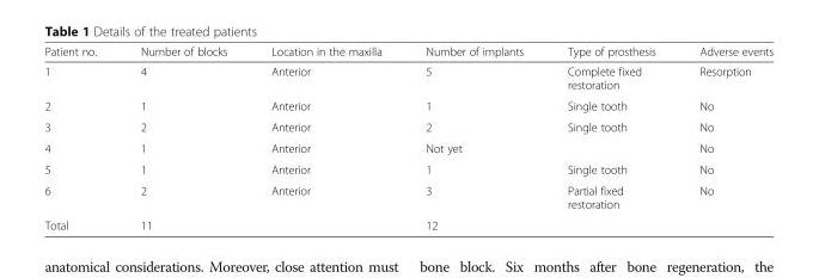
<table><thead><tr><td>Patient no.</td><td>Number of blocks</td><td>Location in the maxilla</td><td>Number of implants</td><td>Type of prosthesis</td><td>Adverse events</td></tr></thead><tbody><tr><td>1</td><td>4</td><td>Anterior</td><td>5</td><td>Complete fixed restoration</td><td>Resorption</td></tr><tr><td>2</td><td>1</td><td>Anterior</td><td>1</td><td>Single tooth</td><td>No</td></tr><tr><td>3</td><td>2</td><td>Anterior</td><td>2</td><td>Single tooth</td><td>No</td></tr><tr><td>4</td><td>1</td><td>Anterior</td><td>Not yet</td><td></td><td>No</td></tr><tr><td>5</td><td>1</td><td>Anterior</td><td>1</td><td>Single tooth</td><td>No</td></tr><tr><td>6</td><td>2</td><td>Anterior</td><td>3</td><td>Partial fixed restoration</td><td>No</td></tr><tr><td>Total</td><td>11</td><td></td><td>12</td><td></td><td></td></tr></tbody></table>